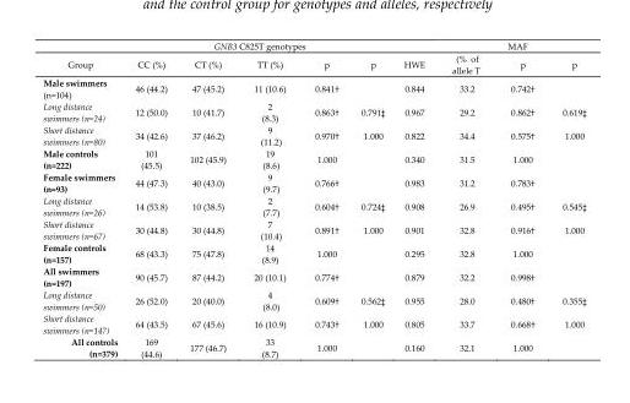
<table><thead><tr><td rowspan="2">Group</td><td colspan="5">GNB3 C825T genotypes</td><td rowspan="2">HWE</td><td colspan="3">MAF</td></tr><tr><td>CC (%)</td><td>CT (%)</td><td>TT (%)</td><td>p</td><td>p</td><td>(% of allele T</td><td>p</td><td>p</td></tr></thead><tbody><tr><td>Male swimmers (n=104)</td><td>46 (44.2)</td><td>47 (45.2)</td><td>11 (10.6)</td><td>0.841†</td><td></td><td>0.844</td><td>33.2</td><td>0.742†</td><td></td></tr><tr><td>Long distance swimmers (n=24)</td><td>12 (50.0)</td><td>10 (41.7)</td><td>2 (8.3)</td><td>0.863†</td><td>0.791‡</td><td>0.967</td><td>29.2</td><td>0.862†</td><td>0.619‡</td></tr><tr><td>Short distance swimmers (n=80)</td><td>34 (42.6)</td><td>37 (46.2)</td><td>9 (11.2)</td><td>0.970†</td><td>1.000</td><td>0.822</td><td>34.4</td><td>0.575†</td><td>1.000</td></tr><tr><td>Male controls (n=222)</td><td>101 (45.5)</td><td>102 (45.9)</td><td>19 (8.6)</td><td>1.000</td><td></td><td>0.340</td><td>31.5</td><td>1.000</td><td></td></tr><tr><td>Female swimmers (n=93)</td><td>44 (47.3)</td><td>40 (43.0)</td><td>9 (9.7)</td><td>0.766†</td><td></td><td>0.983</td><td>31.2</td><td>0.783†</td><td></td></tr><tr><td>Long distance swimmers (n=26)</td><td>14 (53.8)</td><td>10 (38.5)</td><td>2 (7.7)</td><td>0.604†</td><td>0.724‡</td><td>0.908</td><td>26.9</td><td>0.495†</td><td>0.545‡</td></tr><tr><td>Short distance swimmers (n=67)</td><td>30 (44.8)</td><td>30 (44.8)</td><td>7 (10.4)</td><td>0.891†</td><td>1.000</td><td>0.901</td><td>32.8</td><td>0.916†</td><td>1.000</td></tr><tr><td>Female controls (n=157)</td><td>68 (43.3)</td><td>75 (47.8)</td><td>14 (8.9)</td><td>1.000</td><td></td><td>0.295</td><td>32.8</td><td>1.000</td><td></td></tr><tr><td>All swimmers (n=197)</td><td>90 (45.7)</td><td>87 (44.2)</td><td>20 (10.1)</td><td>0.774†</td><td></td><td>0.879</td><td>32.2</td><td>0.998†</td><td></td></tr><tr><td>Long distance swimmers (n=50)</td><td>26 (52.0)</td><td>20 (40.0)</td><td>4 (8.0)</td><td>0.609†</td><td>0.562‡</td><td>0.955</td><td>28.0</td><td>0.480†</td><td>0.355‡</td></tr><tr><td>Short distance swimmers (n=147)</td><td>64 (43.5)</td><td>67 (45.6)</td><td>16 (10.9)</td><td>0.743†</td><td>1.000</td><td>0.805</td><td>33.7</td><td>0.668†</td><td>1.000</td></tr><tr><td>All controls (n=379)</td><td>169 (44.6)</td><td>177 (46.7)</td><td>33 (8.7)</td><td>1.000</td><td></td><td>0.160</td><td>32.1</td><td>1.000</td><td></td></tr></tbody></table>